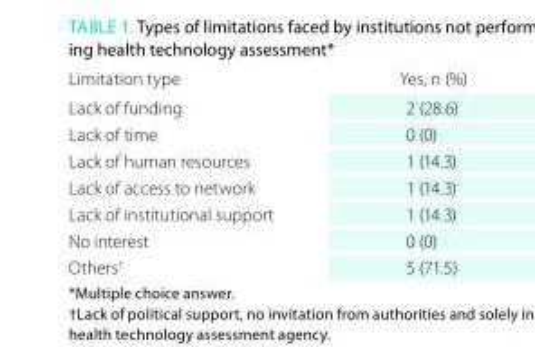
<table><thead><tr><td>Limitation type</td><td>Yes, n (%)</td></tr></thead><tbody><tr><td>Lack of funding</td><td>2 (28.6)</td></tr><tr><td>Lack of time</td><td>0 (0)</td></tr><tr><td>Lack of human resources</td><td>1 (14.3)</td></tr><tr><td>Lack of access to network</td><td>1 (14.3)</td></tr><tr><td>Lack of institutional support</td><td>1 (14.3)</td></tr><tr><td>No interest</td><td>0 (0)</td></tr><tr><td>Others<sup>†</sup></td><td>5 (71.5)</td></tr></tbody></table>